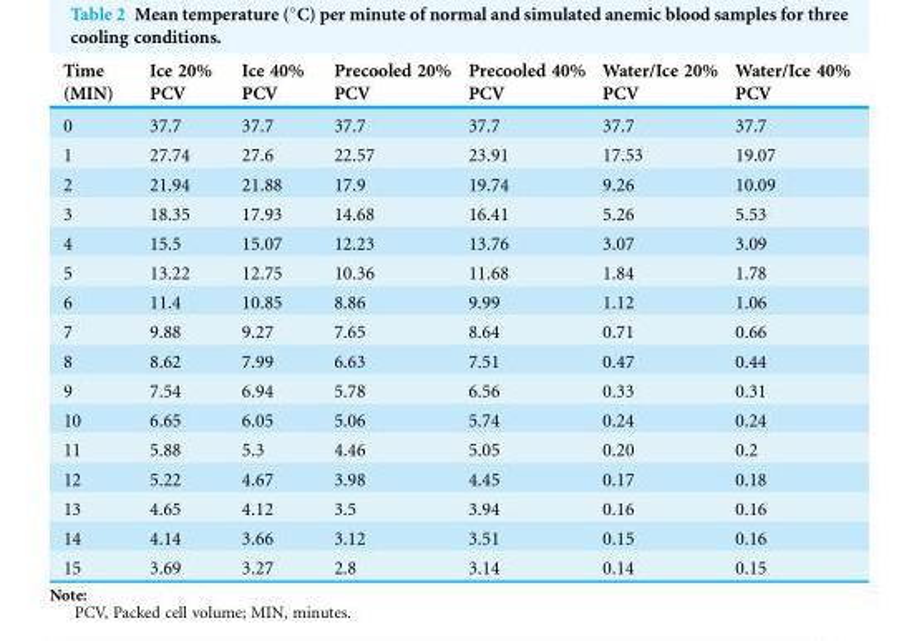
<table><thead><tr><td>Time (MIN)</td><td>Ice 20% PCV</td><td>Ice 40% PCV</td><td>Precooled 20% PCV</td><td>Precooled 40% PCV</td><td>Water/Ice 20% PCV</td><td>Water/Ice 40% PCV</td></tr></thead><tbody><tr><td>0</td><td>37.7</td><td>37.7</td><td>37.7</td><td>37.7</td><td>37.7</td><td>37.7</td></tr><tr><td>1</td><td>27.74</td><td>27.6</td><td>22.57</td><td>23.91</td><td>17.53</td><td>19.07</td></tr><tr><td>2</td><td>21.94</td><td>21.88</td><td>17.9</td><td>19.74</td><td>9.26</td><td>10.09</td></tr><tr><td>3</td><td>18.35</td><td>17.93</td><td>14.68</td><td>16.41</td><td>5.26</td><td>5.53</td></tr><tr><td>4</td><td>15.5</td><td>15.07</td><td>12.23</td><td>13.76</td><td>3.07</td><td>3.09</td></tr><tr><td>5</td><td>13.22</td><td>12.75</td><td>10.36</td><td>11.68</td><td>1.84</td><td>1.78</td></tr><tr><td>6</td><td>11.4</td><td>10.85</td><td>8.86</td><td>9.99</td><td>1.12</td><td>1.06</td></tr><tr><td>7</td><td>9.88</td><td>9.27</td><td>7.65</td><td>8.64</td><td>0.71</td><td>0.66</td></tr><tr><td>8</td><td>8.62</td><td>7.99</td><td>6.63</td><td>7.51</td><td>0.47</td><td>0.44</td></tr><tr><td>9</td><td>7.54</td><td>6.94</td><td>5.78</td><td>6.56</td><td>0.33</td><td>0.31</td></tr><tr><td>10</td><td>6.65</td><td>6.05</td><td>5.06</td><td>5.74</td><td>0.24</td><td>0.24</td></tr><tr><td>11</td><td>5.88</td><td>5.3</td><td>4.46</td><td>5.05</td><td>0.20</td><td>0.2</td></tr><tr><td>12</td><td>5.22</td><td>4.67</td><td>3.98</td><td>4.45</td><td>0.17</td><td>0.18</td></tr><tr><td>13</td><td>4.65</td><td>4.12</td><td>3.5</td><td>3.94</td><td>0.16</td><td>0.16</td></tr><tr><td>14</td><td>4.14</td><td>3.66</td><td>3.12</td><td>3.51</td><td>0.15</td><td>0.16</td></tr><tr><td>15</td><td>3.69</td><td>3.27</td><td>2.8</td><td>3.14</td><td>0.14</td><td>0.15</td></tr></tbody></table>